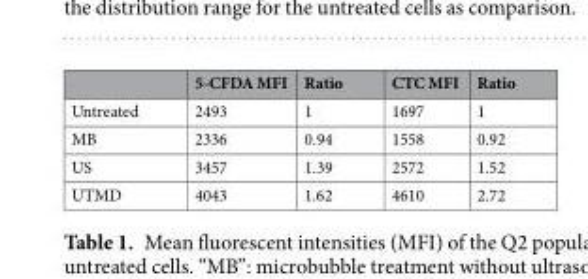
<table><thead><tr><td></td><td>5-CFDA MFI</td><td>Ratio</td><td>CTC MFI</td><td>Ratio</td></tr></thead><tbody><tr><td>Untreated</td><td>2493</td><td>1</td><td>1697</td><td>1</td></tr><tr><td>MB</td><td>2336</td><td>0.94</td><td>1558</td><td>0.92</td></tr><tr><td>US</td><td>3457</td><td>1.39</td><td>2572</td><td>1.52</td></tr><tr><td>UTMD</td><td>4043</td><td>1.62</td><td>4610</td><td>2.72</td></tr></tbody></table>